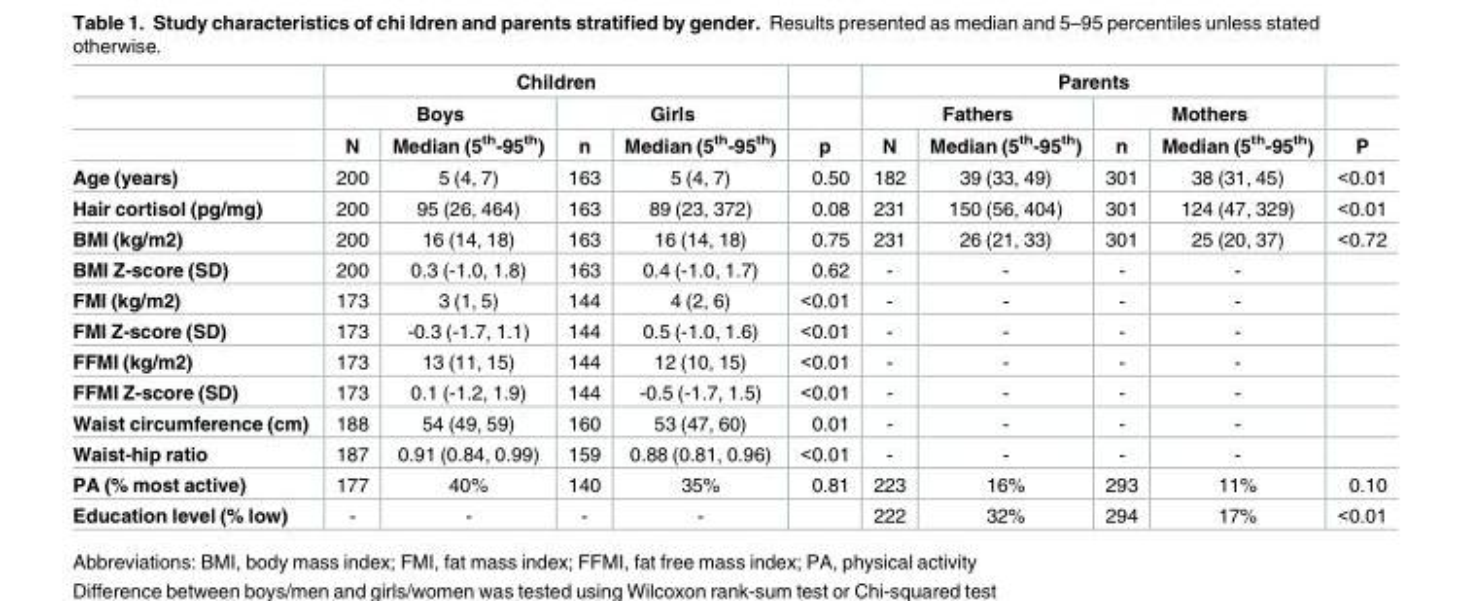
<table><thead><tr><td rowspan="3"></td><td colspan="4">Children</td><td rowspan="3">p</td><td colspan="4">Parents</td><td rowspan="3">P</td></tr><tr><td colspan="2">Boys</td><td colspan="2">Girls</td><td colspan="2">Fathers</td><td colspan="2">Mothers</td></tr><tr><td>N</td><td>Median (5<sup>th</sup>-95<sup>th</sup>)</td><td>n</td><td>Median (5<sup>th</sup>-95<sup>th</sup>)</td><td>N</td><td>Median (5<sup>th</sup>-95<sup>th</sup>)</td><td>n</td><td>Median (5<sup>th</sup>-95<sup>th</sup>)</td></tr></thead><tbody><tr><td>Age (years)</td><td>200</td><td>5 (4, 7)</td><td>163</td><td>5 (4, 7)</td><td>0.50</td><td>182</td><td>39 (33, 49)</td><td>301</td><td>38 (31, 45)</td><td>&lt;0.01</td></tr><tr><td>Hair cortisol (pg/mg)</td><td>200</td><td>95 (26, 464)</td><td>163</td><td>89 (23, 372)</td><td>0.08</td><td>231</td><td>150 (56, 404)</td><td>301</td><td>124 (47, 329)</td><td>&lt;0.01</td></tr><tr><td>BMI (kg/m2)</td><td>200</td><td>16 (14, 18)</td><td>163</td><td>16 (14, 18)</td><td>0.75</td><td>231</td><td>26 (21, 33)</td><td>301</td><td>25 (20, 37)</td><td>&lt;0.72</td></tr><tr><td>BMI Z-score (SD)</td><td>200</td><td>0.3 (-1.0, 1.8)</td><td>163</td><td>0.4 (-1.0, 1.7)</td><td>0.62</td><td>-</td><td>-</td><td>-</td><td>-</td><td></td></tr><tr><td>FMI (kg/m2)</td><td>173</td><td>3 (1, 5)</td><td>144</td><td>4 (2, 6)</td><td>&lt;0.01</td><td>-</td><td>-</td><td>-</td><td>-</td><td></td></tr><tr><td>FMI Z-score (SD)</td><td>173</td><td>-0.3 (-1.7, 1.1)</td><td>144</td><td>0.5 (-1.0, 1.6)</td><td>&lt;0.01</td><td>-</td><td>-</td><td>-</td><td>-</td><td></td></tr><tr><td>FFMI (kg/m2)</td><td>173</td><td>13 (11, 15)</td><td>144</td><td>12 (10, 15)</td><td>&lt;0.01</td><td>-</td><td>-</td><td>-</td><td>-</td><td></td></tr><tr><td>FFMI Z-score (SD)</td><td>173</td><td>0.1 (-1.2, 1.9)</td><td>144</td><td>-0.5 (-1.7, 1.5)</td><td>&lt;0.01</td><td>-</td><td>-</td><td>-</td><td>-</td><td></td></tr><tr><td>Waist circumference (cm)</td><td>188</td><td>54 (49, 59)</td><td>160</td><td>53 (47, 60)</td><td>0.01</td><td>-</td><td>-</td><td>-</td><td>-</td><td></td></tr><tr><td>Waist-hip ratio</td><td>187</td><td>0.91 (0.84, 0.99)</td><td>159</td><td>0.88 (0.81, 0.96)</td><td>&lt;0.01</td><td>-</td><td>-</td><td>-</td><td>-</td><td></td></tr><tr><td>PA (% most active)</td><td>177</td><td>40%</td><td>140</td><td>35%</td><td>0.81</td><td>223</td><td>16%</td><td>293</td><td>11%</td><td>0.10</td></tr><tr><td>Education level (% low)</td><td>-</td><td>-</td><td>-</td><td>-</td><td></td><td>222</td><td>32%</td><td>294</td><td>17%</td><td>&lt;0.01</td></tr></tbody></table>